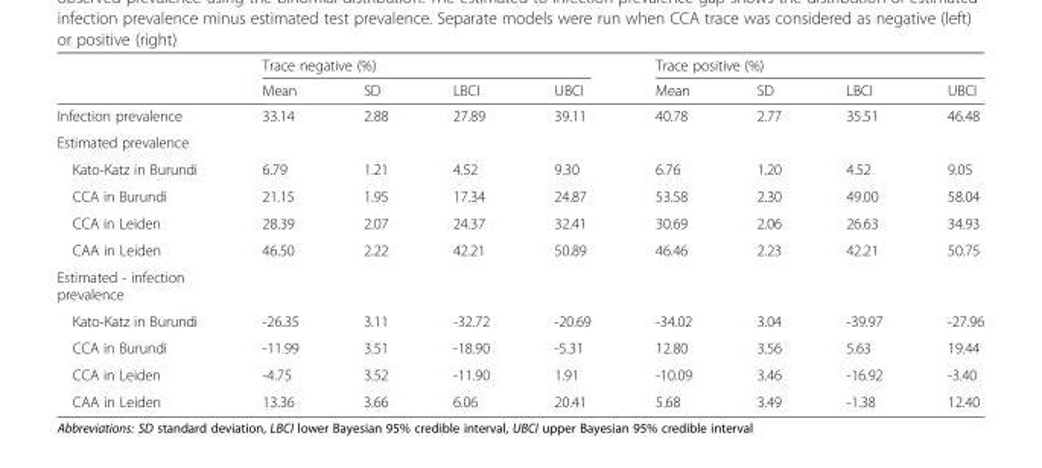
<table><thead><tr><td rowspan="2"></td><td colspan="4">Trace negative (%)</td><td colspan="4">Trace positive (%)</td></tr><tr><td>Mean</td><td>SD</td><td>LBCI</td><td>UBCI</td><td>Mean</td><td>SD</td><td>LBCI</td><td>UBCI</td></tr></thead><tbody><tr><td>Infection prevalence</td><td>33.14</td><td>2.88</td><td>27.89</td><td>39.11</td><td>40.78</td><td>2.77</td><td>35.51</td><td>46.48</td></tr><tr><td colspan="9">Estimated prevalence</td></tr><tr><td>Kato-Katz in Burundi</td><td>6.79</td><td>1.21</td><td>4.52</td><td>9.30</td><td>6.76</td><td>1.20</td><td>4.52</td><td>9.05</td></tr><tr><td>CCA in Burundi</td><td>21.15</td><td>1.95</td><td>17.34</td><td>24.87</td><td>53.58</td><td>2.30</td><td>49.00</td><td>58.04</td></tr><tr><td>CCA in Leiden</td><td>28.39</td><td>2.07</td><td>24.37</td><td>32.41</td><td>30.69</td><td>2.06</td><td>26.63</td><td>34.93</td></tr><tr><td>CAA in Leiden</td><td>46.50</td><td>2.22</td><td>42.21</td><td>50.89</td><td>46.46</td><td>2.23</td><td>42.21</td><td>50.75</td></tr><tr><td colspan="9">Estimated - infection prevalence</td></tr><tr><td>Kato-Katz in Burundi</td><td>-26.35</td><td>3.11</td><td>-32.72</td><td>-20.69</td><td>-34.02</td><td>3.04</td><td>-39.97</td><td>-27.96</td></tr><tr><td>CCA in Burundi</td><td>-11.99</td><td>3.51</td><td>-18.90</td><td>-5.31</td><td>12.80</td><td>3.56</td><td>5.63</td><td>19.44</td></tr><tr><td>CCA in Leiden</td><td>-4.75</td><td>3.52</td><td>-11.90</td><td>1.91</td><td>-10.09</td><td>3.46</td><td>-16.92</td><td>-3.40</td></tr><tr><td>CAA in Leiden</td><td>13.36</td><td>3.66</td><td>6.06</td><td>20.41</td><td>5.68</td><td>3.49</td><td>-1.38</td><td>12.40</td></tr></tbody></table>